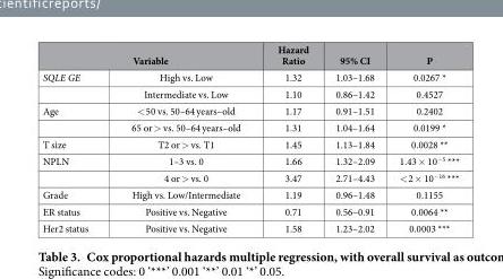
<table><thead><tr><td colspan="2">Variable</td><td rowspan="2">Hazard Ratio 1.32</td><td rowspan="2">95% CI 1.03–1.68</td><td rowspan="2">P 0.0267 *</td></tr><tr><td>SQLE GE</td><td>High vs. Low</td></tr></thead><tbody><tr><td></td><td>Intermediate vs. Low</td><td>1.10</td><td>0.86–1.42</td><td>0.4527</td></tr><tr><td rowspan="2">Age</td><td>&lt; 50 vs. 50–64 years–old</td><td>1.17</td><td>0.91–1.51</td><td>0.2402</td></tr><tr><td>65 or &gt; vs. 50–64 years–old</td><td>1.31</td><td>1.04–1.64</td><td>0.0199 *</td></tr><tr><td>T size</td><td>T2 or &gt; vs. T1</td><td>1.45</td><td>1.13–1.84</td><td>0.0028 **</td></tr><tr><td rowspan="2">NPLN</td><td>1–3 vs. 0</td><td>1.66</td><td>1.32–2.09</td><td>1.43 × 10<sup>−5</sup> ***</td></tr><tr><td>4 or &gt; vs. 0</td><td>3.47</td><td>2.71–4.43</td><td>&lt; 2 × 10<sup>−16</sup> ***</td></tr><tr><td>Grade</td><td>High vs. Low/Intermediate</td><td>1.19</td><td>0.96–1.48</td><td>0.1155</td></tr><tr><td>ER status</td><td>Positive vs. Negative</td><td>0.71</td><td>0.56–0.91</td><td>0.0064 **</td></tr><tr><td>Her2 status</td><td>Positive vs. Negative</td><td>1.58</td><td>1.23–2.02</td><td>0.0003 ***</td></tr></tbody></table>